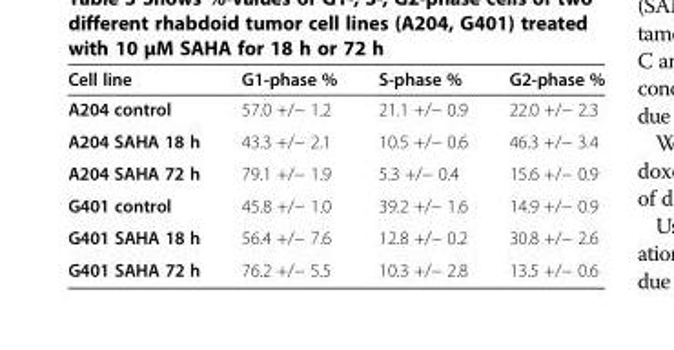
<table><thead><tr><td>Cell line</td><td>G1-phase %</td><td>S-phase %</td><td>G2-phase %</td></tr></thead><tbody><tr><td>A204 control</td><td>57.0 +/− 1.2</td><td>21.1 +/− 0.9</td><td>22.0 +/− 2.3</td></tr><tr><td>A204 SAHA 18 h</td><td>43.3 +/− 2.1</td><td>10.5 +/− 0.6</td><td>46.3 +/− 3.4</td></tr><tr><td>A204 SAHA 72 h</td><td>79.1 +/− 1.9</td><td>5.3 +/− 0.4</td><td>15.6 +/− 0.9</td></tr><tr><td>G401 control</td><td>45.8 +/− 1.0</td><td>39.2 +/− 1.6</td><td>14.9 +/− 0.9</td></tr><tr><td>G401 SAHA 18 h</td><td>56.4 +/− 7.6</td><td>12.8 +/− 0.2</td><td>30.8 +/− 2.6</td></tr><tr><td>G401 SAHA 72 h</td><td>76.2 +/− 5.5</td><td>10.3 +/− 2.8</td><td>13.5 +/− 0.6</td></tr></tbody></table>